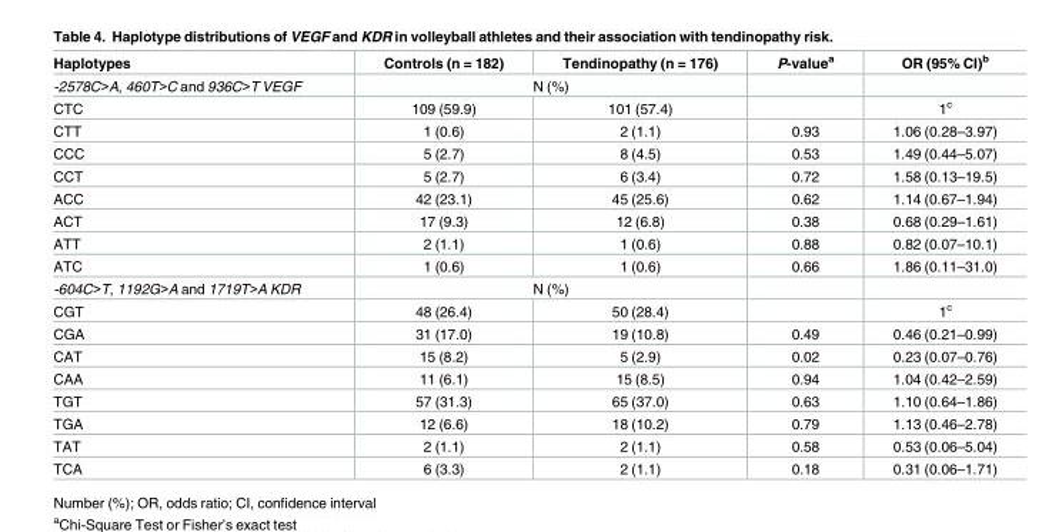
<table><thead><tr><td>Haplotypes</td><td>Controls (n = 182)</td><td>Tendinopathy (n = 176)</td><td>P-value<sup>a</sup></td><td>OR (95% CI)<sup>b</sup></td></tr></thead><tbody><tr><td>-2578C&gt;A, 460T&gt;C and 936C&gt;T VEGF</td><td colspan="2">N (%)</td><td></td><td></td></tr><tr><td>CTC</td><td>109 (59.9)</td><td>101 (57.4)</td><td></td><td>1<sup>c</sup></td></tr><tr><td>CTT</td><td>1 (0.6)</td><td>2 (1.1)</td><td>0.93</td><td>1.06 (0.28–3.97)</td></tr><tr><td>CCC</td><td>5 (2.7)</td><td>8 (4.5)</td><td>0.53</td><td>1.49 (0.44–5.07)</td></tr><tr><td>CCT</td><td>5 (2.7)</td><td>6 (3.4)</td><td>0.72</td><td>1.58 (0.13–19.5)</td></tr><tr><td>ACC</td><td>42 (23.1)</td><td>45 (25.6)</td><td>0.62</td><td>1.14 (0.67–1.94)</td></tr><tr><td>ACT</td><td>17 (9.3)</td><td>12 (6.8)</td><td>0.38</td><td>0.68 (0.29–1.61)</td></tr><tr><td>ATT</td><td>2 (1.1)</td><td>1 (0.6)</td><td>0.88</td><td>0.82 (0.07–10.1)</td></tr><tr><td>ATC</td><td>1 (0.6)</td><td>1 (0.6)</td><td>0.66</td><td>1.86 (0.11–31.0)</td></tr><tr><td>-604C&gt;T, 1192G&gt;A and 1719T&gt;A KDR</td><td colspan="2">N (%)</td><td></td><td></td></tr><tr><td>CGT</td><td>48 (26.4)</td><td>50 (28.4)</td><td></td><td>1<sup>c</sup></td></tr><tr><td>CGA</td><td>31 (17.0)</td><td>19 (10.8)</td><td>0.49</td><td>0.46 (0.21–0.99)</td></tr><tr><td>CAT</td><td>15 (8.2)</td><td>5 (2.9)</td><td>0.02</td><td>0.23 (0.07–0.76)</td></tr><tr><td>CAA</td><td>11 (6.1)</td><td>15 (8.5)</td><td>0.94</td><td>1.04 (0.42–2.59)</td></tr><tr><td>TGT</td><td>57 (31.3)</td><td>65 (37.0)</td><td>0.63</td><td>1.10 (0.64–1.86)</td></tr><tr><td>TGA</td><td>12 (6.6)</td><td>18 (10.2)</td><td>0.79</td><td>1.13 (0.46–2.78)</td></tr><tr><td>TAT</td><td>2 (1.1)</td><td>2 (1.1)</td><td>0.58</td><td>0.53 (0.06–5.04)</td></tr><tr><td>TCA</td><td>6 (3.3)</td><td>2 (1.1)</td><td>0.18</td><td>0.31 (0.06–1.71)</td></tr></tbody></table>